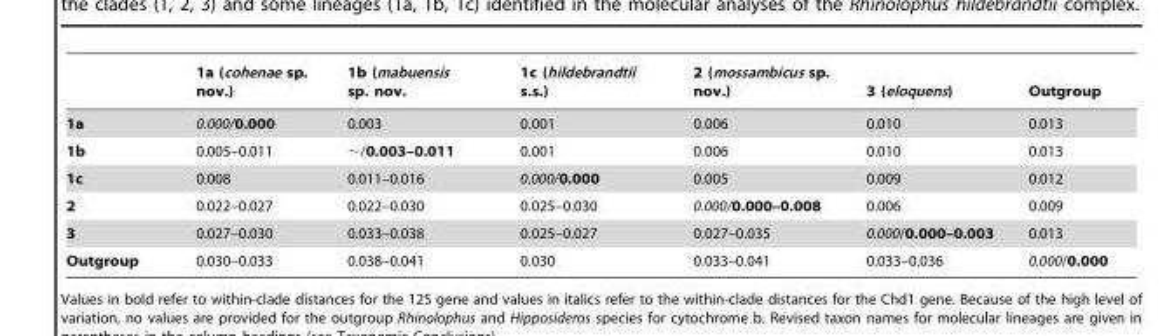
<table><thead><tr><td></td><td>1a (cohenae sp. nov.)</td><td>1b (mabuensis sp. nov.</td><td>1c (hildebrandtii s.s.)</td><td>2 (mossambicus sp. nov.)</td><td>3 (eloquens)</td><td>Outgroup</td></tr></thead><tbody><tr><td>1a</td><td>0.000/0.000</td><td>0.003</td><td>0.001</td><td>0.006</td><td>0.010</td><td>0.013</td></tr><tr><td>1b</td><td>0.005–0.011</td><td>∼/0.003–0.011</td><td>0.001</td><td>0.006</td><td>0.010</td><td>0.013</td></tr><tr><td>1c</td><td>0.008</td><td>0.011–0.016</td><td>0.000/0.000</td><td>0.005</td><td>0.009</td><td>0.012</td></tr><tr><td>2</td><td>0.022–0.027</td><td>0.022–0.030</td><td>0.025–0.030</td><td>0.000/0.000–0.008</td><td>0.006</td><td>0.009</td></tr><tr><td>3</td><td>0.027–0.030</td><td>0.033–0.038</td><td>0.025–0.027</td><td>0.027–0.035</td><td>0.000/0.000–0.003</td><td>0.013</td></tr><tr><td>Outgroup</td><td>0.030–0.033</td><td>0.038–0.041</td><td>0.030</td><td>0.033–0.041</td><td>0.033–0.036</td><td>0.000/0.000</td></tr></tbody></table>